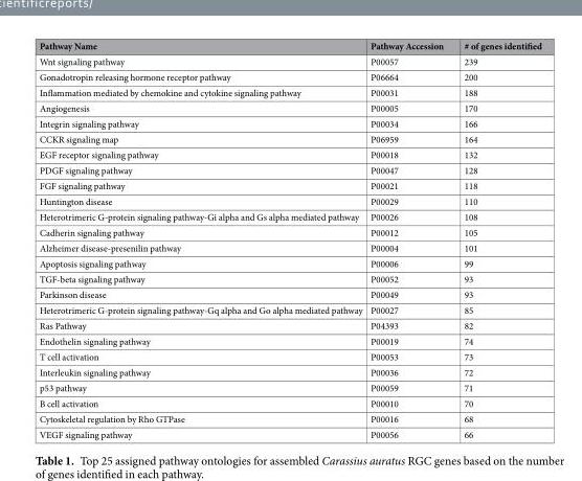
<table><thead><tr><td>Pathway Name</td><td>Pathway Accession</td><td># of genes identified</td></tr></thead><tbody><tr><td>Wnt signaling pathway</td><td>P00057</td><td>239</td></tr><tr><td>Gonadotropin releasing hormone receptor pathway</td><td>P06664</td><td>200</td></tr><tr><td>Inflammation mediated by chemokine and cytokine signaling pathway</td><td>P00031</td><td>188</td></tr><tr><td>Angiogenesis</td><td>P00005</td><td>170</td></tr><tr><td>Integrin signaling pathway</td><td>P00034</td><td>166</td></tr><tr><td>CCKR signaling map</td><td>P06959</td><td>164</td></tr><tr><td>EGF receptor signaling pathway</td><td>P00018</td><td>132</td></tr><tr><td>PDGF signaling pathway</td><td>P00047</td><td>128</td></tr><tr><td>FGF signaling pathway</td><td>P00021</td><td>118</td></tr><tr><td>Huntington disease</td><td>P00029</td><td>110</td></tr><tr><td>Heterotrimeric G-protein signaling pathway-Gi alpha and Gs alpha mediated pathway</td><td>P00026</td><td>108</td></tr><tr><td>Cadherin signaling pathway</td><td>P00012</td><td>105</td></tr><tr><td>Alzheimer disease-presenilin pathway</td><td>P00004</td><td>101</td></tr><tr><td>Apoptosis signaling pathway</td><td>P00006</td><td>99</td></tr><tr><td>TGF-beta signaling pathway</td><td>P00052</td><td>93</td></tr><tr><td>Parkinson disease</td><td>P00049</td><td>93</td></tr><tr><td>Heterotrimeric G-protein signaling pathway-Gq alpha and Go alpha mediated pathway</td><td>P00027</td><td>85</td></tr><tr><td>Ras Pathway</td><td>P04393</td><td>82</td></tr><tr><td>Endothelin signaling pathway</td><td>P00019</td><td>74</td></tr><tr><td>T cell activation</td><td>P00053</td><td>73</td></tr><tr><td>Interleukin signaling pathway</td><td>P00036</td><td>72</td></tr><tr><td>p53 pathway</td><td>P00059</td><td>71</td></tr><tr><td>B cell activation</td><td>P00010</td><td>70</td></tr><tr><td>Cytoskeletal regulation by Rho GTPase</td><td>P00016</td><td>68</td></tr><tr><td>VEGF signaling pathway</td><td>P00056</td><td>66</td></tr></tbody></table>